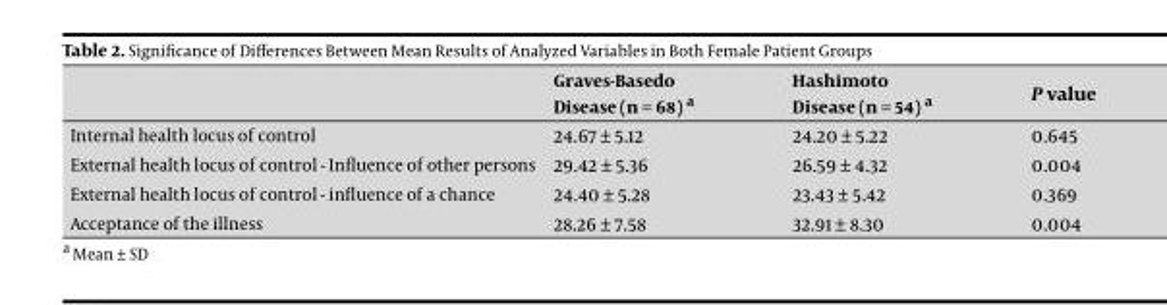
<table><thead><tr><td></td><td>Graves-Basedo Disease (n = 68) a</td><td>Hashimoto Disease (n = 54) a</td><td>P value</td></tr></thead><tbody><tr><td>Internal health locus of control</td><td>24.67 ± 5.12</td><td>24.20 ± 5.22</td><td>0.645</td></tr><tr><td>External health locus of control - Influence of other persons</td><td>29.42 ± 5.36</td><td>26.59 ± 4.32</td><td>0.004</td></tr><tr><td>External health locus of control - influence of a chance</td><td>24.40 ± 5.28</td><td>23.43 ± 5.42</td><td>0.369</td></tr><tr><td>Acceptance of the illness</td><td>28.26 ± 7.58</td><td>32.91 ± 8.30</td><td>0.004</td></tr></tbody></table>